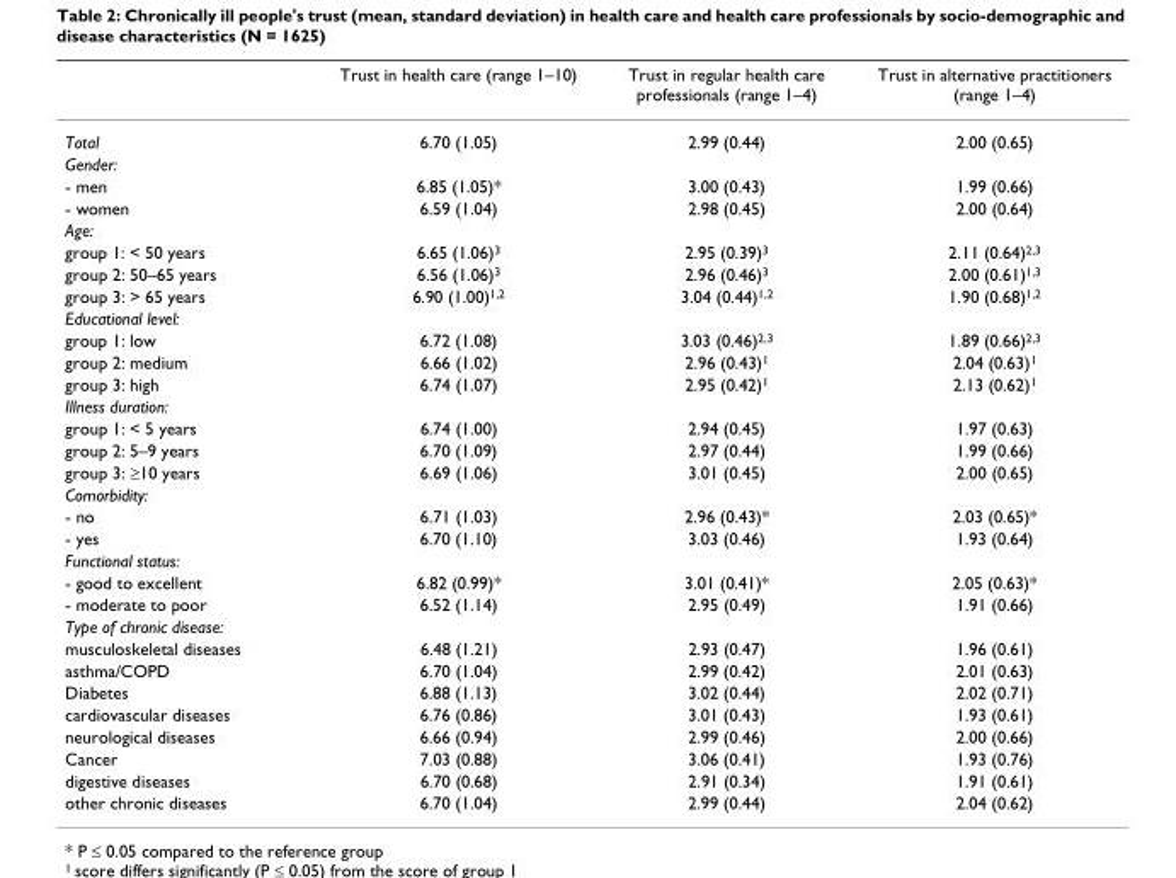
<table><thead><tr><td></td><td>Trust in health care (range 1–10)</td><td>Trust in regular health care professionals (range 1–4)</td><td>Trust in alternative practitioners (range 1–4)</td></tr></thead><tbody><tr><td>Total</td><td>6.70 (1.05)</td><td>2.99 (0.44)</td><td>2.00 (0.65)</td></tr><tr><td colspan="4">Gender:</td></tr><tr><td>- men</td><td>6.85 (1.05)*</td><td>3.00 (0.43)</td><td>1.99 (0.66)</td></tr><tr><td>- women</td><td>6.59 (1.04)</td><td>2.98 (0.45)</td><td>2.00 (0.64)</td></tr><tr><td colspan="4">Age:</td></tr><tr><td>group 1: &lt; 50 years</td><td>6.65 (1.06)3</td><td>2.95 (0.39)3</td><td>2.11 (0.64)2,3</td></tr><tr><td>group 2: 50–65 years</td><td>6.56 (1.06)3</td><td>2.96 (0.46)3</td><td>2.00 (0.61)1,3</td></tr><tr><td>group 3: &gt; 65 years</td><td>6.90 (1.00)1,2</td><td>3.04 (0.44)1,2</td><td>1.90 (0.68)1,2</td></tr><tr><td colspan="4">Educational level:</td></tr><tr><td>group 1: low</td><td>6.72 (1.08)</td><td>3.03 (0.46)2,3</td><td>1.89 (0.66)2,3</td></tr><tr><td>group 2: medium</td><td>6.66 (1.02)</td><td>2.96 (0.43)1</td><td>2.04 (0.63)1</td></tr><tr><td>group 3: high</td><td>6.74 (1.07)</td><td>2.95 (0.42)1</td><td>2.13 (0.62)1</td></tr><tr><td colspan="4">Illness duration:</td></tr><tr><td>group 1: &lt; 5 years</td><td>6.74 (1.00)</td><td>2.94 (0.45)</td><td>1.97 (0.63)</td></tr><tr><td>group 2: 5–9 years</td><td>6.70 (1.09)</td><td>2.97 (0.44)</td><td>1.99 (0.66)</td></tr><tr><td>group 3: ≥10 years</td><td>6.69 (1.06)</td><td>3.01 (0.45)</td><td>2.00 (0.65)</td></tr><tr><td colspan="4">Comorbidity:</td></tr><tr><td>- no</td><td>6.71 (1.03)</td><td>2.96 (0.43)*</td><td>2.03 (0.65)*</td></tr><tr><td>- yes</td><td>6.70 (1.10)</td><td>3.03 (0.46)</td><td>1.93 (0.64)</td></tr><tr><td colspan="4">Functional status:</td></tr><tr><td>- good to excellent</td><td>6.82 (0.99)*</td><td>3.01 (0.41)*</td><td>2.05 (0.63)*</td></tr><tr><td>- moderate to poor</td><td>6.52 (1.14)</td><td>2.95 (0.49)</td><td>1.91 (0.66)</td></tr><tr><td colspan="4">Type of chronic disease:</td></tr><tr><td>musculoskeletal diseases</td><td>6.48 (1.21)</td><td>2.93 (0.47)</td><td>1.96 (0.61)</td></tr><tr><td>asthma/COPD</td><td>6.70 (1.04)</td><td>2.99 (0.42)</td><td>2.01 (0.63)</td></tr><tr><td>Diabetes</td><td>6.88 (1.13)</td><td>3.02 (0.44)</td><td>2.02 (0.71)</td></tr><tr><td>cardiovascular diseases</td><td>6.76 (0.86)</td><td>3.01 (0.43)</td><td>1.93 (0.61)</td></tr><tr><td>neurological diseases</td><td>6.66 (0.94)</td><td>2.99 (0.46)</td><td>2.00 (0.66)</td></tr><tr><td>Cancer</td><td>7.03 (0.88)</td><td>3.06 (0.41)</td><td>1.93 (0.76)</td></tr><tr><td>digestive diseases</td><td>6.70 (0.68)</td><td>2.91 (0.34)</td><td>1.91 (0.61)</td></tr><tr><td>other chronic diseases</td><td>6.70 (1.04)</td><td>2.99 (0.44)</td><td>2.04 (0.62)</td></tr></tbody></table>